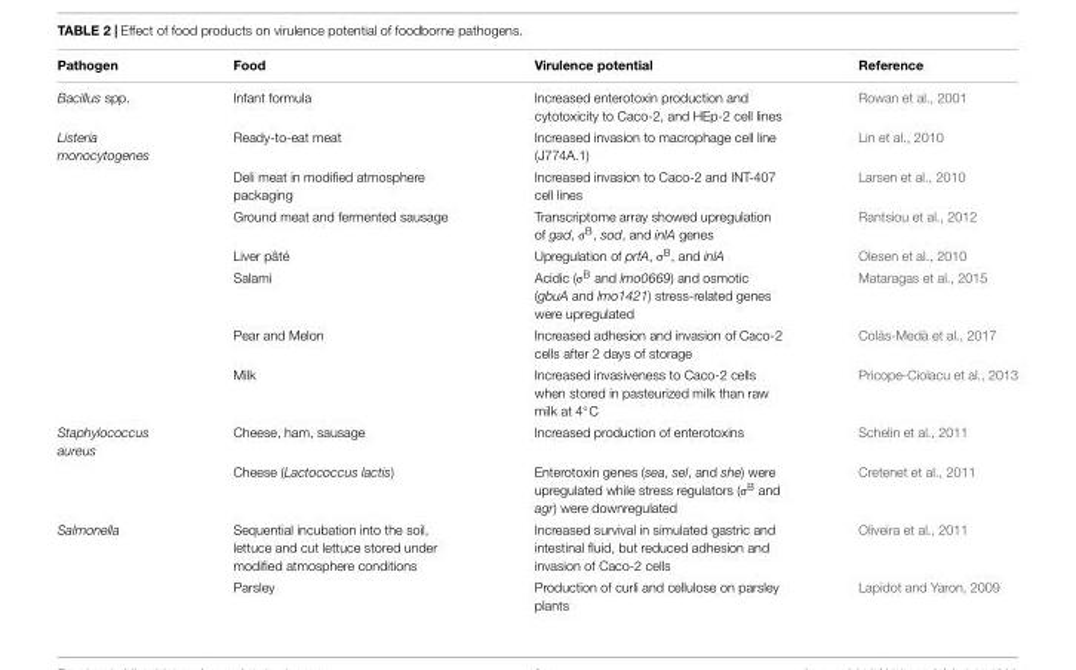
<table><thead><tr><td>Pathogen</td><td>Food</td><td>Virulence potential</td><td>Reference</td></tr></thead><tbody><tr><td>Bacillus spp.</td><td>Infant formula</td><td>Increased enterotoxin production and cytotoxicity to Caco-2, and HEp-2 cell lines</td><td>Rowan et al., 2001</td></tr><tr><td rowspan="7">Listeria monocytogenes</td><td>Ready-to-eat meat</td><td>Increased invasion to macrophage cell line (J774A.1)</td><td>Lin et al., 2010</td></tr><tr><td>Deli meat in modified atmosphere packaging</td><td>Increased invasion to Caco-2 and INT-407 cell lines</td><td>Larsen et al., 2010</td></tr><tr><td>Ground meat and fermented sausage</td><td>Transcriptome array showed upregulation of gad, σ<sup>B</sup>, sod, and inlA genes</td><td>Rantsiou et al., 2012</td></tr><tr><td>Liver pâté</td><td>Upregulation of prfA, σ<sup>B</sup>, and inlA</td><td>Olesen et al., 2010</td></tr><tr><td>Salami</td><td>Acidic (σ<sup>B</sup> and lmo0669) and osmotic (gbuA and lmo1421) stress-related genes were upregulated</td><td>Mataragas et al., 2015</td></tr><tr><td>Pear and Melon</td><td>Increased adhesion and invasion of Caco-2 cells after 2 days of storage</td><td>Colás-Medà et al., 2017</td></tr><tr><td>Milk</td><td>Increased invasiveness to Caco-2 cells when stored in pasteurized milk than raw milk at 4◦C</td><td>Pricope-Ciolacu et al., 2013</td></tr><tr><td rowspan="2">Staphylococcus aureus</td><td>Cheese, ham, sausage</td><td>Increased production of enterotoxins</td><td>Schelin et al., 2011</td></tr><tr><td>Cheese (Lactococcus lactis)</td><td>Enterotoxin genes (sea, sel, and she) were upregulated while stress regulators (σ<sup>B</sup> and agr) were downregulated</td><td>Cretenet et al., 2011</td></tr><tr><td rowspan="2">Salmonella</td><td>Sequential incubation into the soil, lettuce and cut lettuce stored under modified atmosphere conditions</td><td>Increased survival in simulated gastric and intestinal fluid, but reduced adhesion and invasion of Caco-2 cells</td><td>Oliveira et al., 2011</td></tr><tr><td>Parsley</td><td>Production of curli and cellulose on parsley plants</td><td>Lapidot and Yaron, 2009</td></tr></tbody></table>